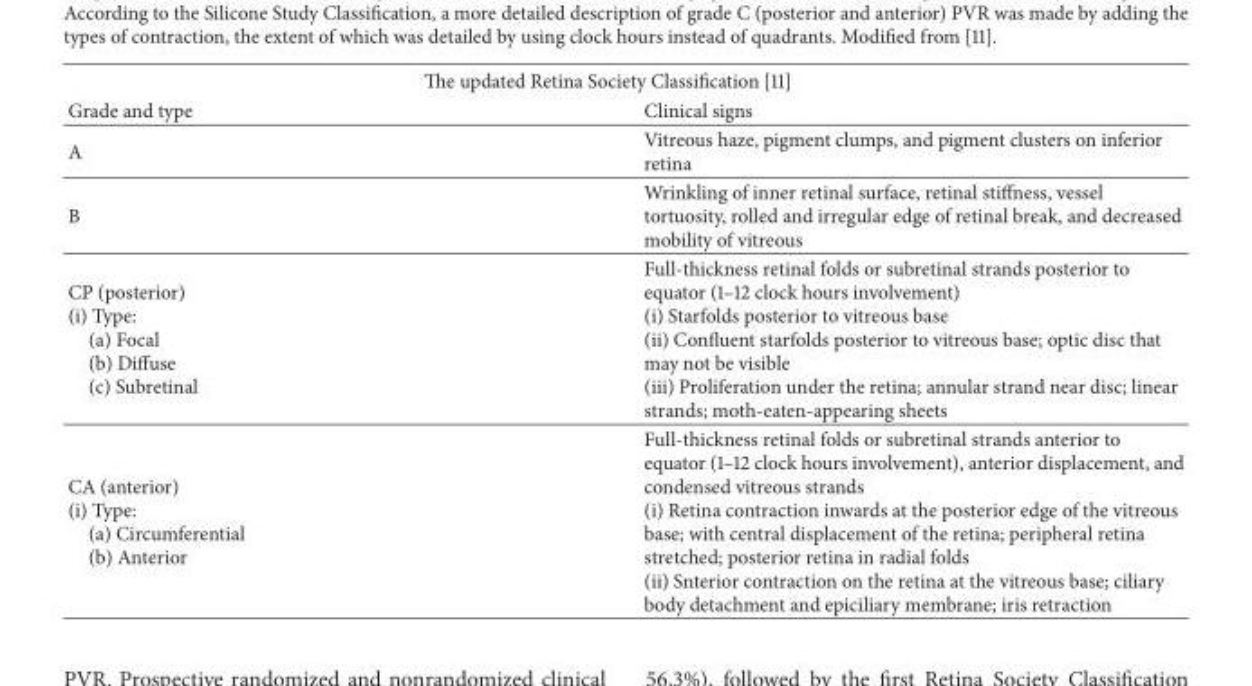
<table><thead><tr><td colspan="2">The updated Retina Society Classification [11]</td></tr><tr><td>Grade and type</td><td>Clinical signs</td></tr></thead><tbody><tr><td>A</td><td>Vitreous haze, pigment clumps, and pigment clusters on inferior retina</td></tr><tr><td>B</td><td>Wrinkling of inner retinal surface, retinal stiffness, vessel tortuosity, rolled and irregular edge of retinal break, and decreased mobility of vitreous</td></tr><tr><td>CP (posterior) (i) Type: (a) Focal (b) Diffuse (c) Subretinal</td><td>Full-thickness retinal folds or subretinal strands posterior to equator (1–12 clock hours involvement) (i) Starfolds posterior to vitreous base (ii) Confluent starfolds posterior to vitreous base; optic disc that may not be visible (iii) Proliferation under the retina; annular strand near disc; linear strands; moth-eaten-appearing sheets</td></tr><tr><td>CA (anterior) (i) Type: (a) Circumferential (b) Anterior</td><td>Full-thickness retinal folds or subretinal strands anterior to equator (1–12 clock hours involvement), anterior displacement, and condensed vitreous strands (i) Retina contraction inwards at the posterior edge of the vitreous base; with central displacement of the retina; peripheral retina stretched; posterior retina in radial folds (ii) Snterior contraction on the retina at the vitreous base; ciliary body detachment and epiciliary membrane; iris retraction</td></tr></tbody></table>